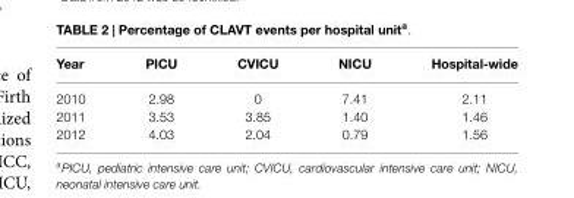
<table><thead><tr><td>Year</td><td>PICU</td><td>CVICU</td><td>NICU</td><td>Hospital-wide</td></tr></thead><tbody><tr><td>2010</td><td>2.98</td><td>0</td><td>7.41</td><td>2.11</td></tr><tr><td>2011</td><td>3.53</td><td>3.85</td><td>1.40</td><td>1.46</td></tr><tr><td>2012</td><td>4.03</td><td>2.04</td><td>0.79</td><td>1.56</td></tr></tbody></table>